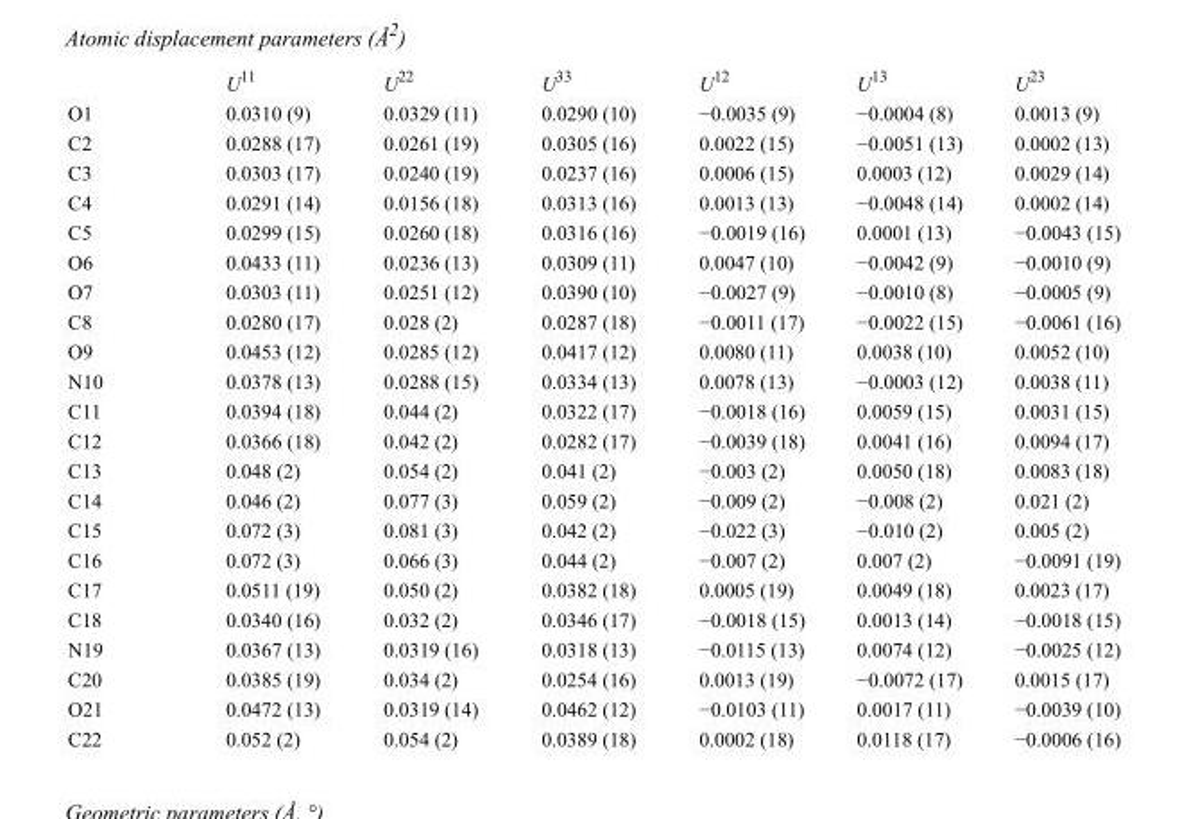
<table><thead><tr><td></td><td>U<sup>11</sup></td><td>U<sup>22</sup></td><td>U<sup>33</sup></td><td>U<sup>12</sup></td><td>U<sup>13</sup></td><td>U<sup>23</sup></td></tr></thead><tbody><tr><td>O1</td><td>0.0310 (9)</td><td>0.0329 (11)</td><td>0.0290 (10)</td><td>−0.0035 (9)</td><td>−0.0004 (8)</td><td>0.0013 (9)</td></tr><tr><td>C2</td><td>0.0288 (17)</td><td>0.0261 (19)</td><td>0.0305 (16)</td><td>0.0022 (15)</td><td>−0.0051 (13)</td><td>0.0002 (13)</td></tr><tr><td>C3</td><td>0.0303 (17)</td><td>0.0240 (19)</td><td>0.0237 (16)</td><td>0.0006 (15)</td><td>0.0003 (12)</td><td>0.0029 (14)</td></tr><tr><td>C4</td><td>0.0291 (14)</td><td>0.0156 (18)</td><td>0.0313 (16)</td><td>0.0013 (13)</td><td>−0.0048 (14)</td><td>0.0002 (14)</td></tr><tr><td>C5</td><td>0.0299 (15)</td><td>0.0260 (18)</td><td>0.0316 (16)</td><td>−0.0019 (16)</td><td>0.0001 (13)</td><td>−0.0043 (15)</td></tr><tr><td>O6</td><td>0.0433 (11)</td><td>0.0236 (13)</td><td>0.0309 (11)</td><td>0.0047 (10)</td><td>−0.0042 (9)</td><td>−0.0010 (9)</td></tr><tr><td>O7</td><td>0.0303 (11)</td><td>0.0251 (12)</td><td>0.0390 (10)</td><td>−0.0027 (9)</td><td>−0.0010 (8)</td><td>−0.0005 (9)</td></tr><tr><td>C8</td><td>0.0280 (17)</td><td>0.028 (2)</td><td>0.0287 (18)</td><td>−0.0011 (17)</td><td>−0.0022 (15)</td><td>−0.0061 (16)</td></tr><tr><td>O9</td><td>0.0453 (12)</td><td>0.0285 (12)</td><td>0.0417 (12)</td><td>0.0080 (11)</td><td>0.0038 (10)</td><td>0.0052 (10)</td></tr><tr><td>N10</td><td>0.0378 (13)</td><td>0.0288 (15)</td><td>0.0334 (13)</td><td>0.0078 (13)</td><td>−0.0003 (12)</td><td>0.0038 (11)</td></tr><tr><td>C11</td><td>0.0394 (18)</td><td>0.044 (2)</td><td>0.0322 (17)</td><td>−0.0018 (16)</td><td>0.0059 (15)</td><td>0.0031 (15)</td></tr><tr><td>C12</td><td>0.0366 (18)</td><td>0.042 (2)</td><td>0.0282 (17)</td><td>−0.0039 (18)</td><td>0.0041 (16)</td><td>0.0094 (17)</td></tr><tr><td>C13</td><td>0.048 (2)</td><td>0.054 (2)</td><td>0.041 (2)</td><td>−0.003 (2)</td><td>0.0050 (18)</td><td>0.0083 (18)</td></tr><tr><td>C14</td><td>0.046 (2)</td><td>0.077 (3)</td><td>0.059 (2)</td><td>−0.009 (2)</td><td>−0.008 (2)</td><td>0.021 (2)</td></tr><tr><td>C15</td><td>0.072 (3)</td><td>0.081 (3)</td><td>0.042 (2)</td><td>−0.022 (3)</td><td>−0.010 (2)</td><td>0.005 (2)</td></tr><tr><td>C16</td><td>0.072 (3)</td><td>0.066 (3)</td><td>0.044 (2)</td><td>−0.007 (2)</td><td>0.007 (2)</td><td>−0.0091 (19)</td></tr><tr><td>C17</td><td>0.0511 (19)</td><td>0.050 (2)</td><td>0.0382 (18)</td><td>0.0005 (19)</td><td>0.0049 (18)</td><td>0.0023 (17)</td></tr><tr><td>C18</td><td>0.0340 (16)</td><td>0.032 (2)</td><td>0.0346 (17)</td><td>−0.0018 (15)</td><td>0.0013 (14)</td><td>−0.0018 (15)</td></tr><tr><td>N19</td><td>0.0367 (13)</td><td>0.0319 (16)</td><td>0.0318 (13)</td><td>−0.0115 (13)</td><td>0.0074 (12)</td><td>−0.0025 (12)</td></tr><tr><td>C20</td><td>0.0385 (19)</td><td>0.034 (2)</td><td>0.0254 (16)</td><td>0.0013 (19)</td><td>−0.0072 (17)</td><td>0.0015 (17)</td></tr><tr><td>O21</td><td>0.0472 (13)</td><td>0.0319 (14)</td><td>0.0462 (12)</td><td>−0.0103 (11)</td><td>0.0017 (11)</td><td>−0.0039 (10)</td></tr><tr><td>C22</td><td>0.052 (2)</td><td>0.054 (2)</td><td>0.0389 (18)</td><td>0.0002 (18)</td><td>0.0118 (17)</td><td>−0.0006 (16)</td></tr></tbody></table>